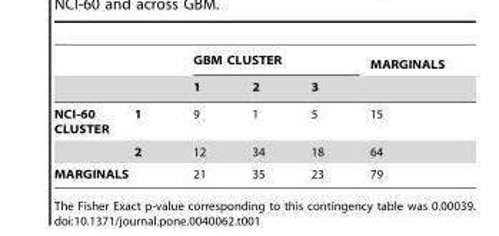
<table><thead><tr><td rowspan="2"></td><td rowspan="2"></td><td colspan="3">GBM CLUSTER</td><td rowspan="2">MARGINALS</td></tr><tr><td>1</td><td>2</td><td>3</td></tr></thead><tbody><tr><td rowspan="2">NCI-60 CLUSTER</td><td>1</td><td>9</td><td>1</td><td>5</td><td>15</td></tr><tr><td>2</td><td>12</td><td>34</td><td>18</td><td>64</td></tr><tr><td colspan="2">MARGINALS</td><td>21</td><td>35</td><td>23</td><td>79</td></tr></tbody></table>